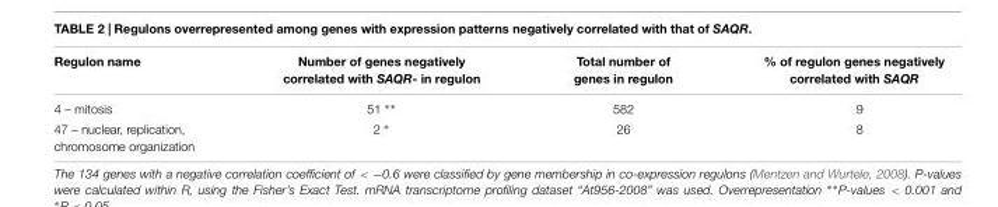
<table><thead><tr><td>Regulon name</td><td>Number of genes negatively correlated with SAQR- in regulon</td><td>Total number of genes in regulon</td><td>% of regulon genes negatively correlated with SAQR</td></tr></thead><tbody><tr><td>4 – mitosis</td><td>51 ∗∗</td><td>582</td><td>9</td></tr><tr><td>47 – nuclear, replication, chromosome organization</td><td>2 ∗</td><td>26</td><td>8</td></tr></tbody></table>